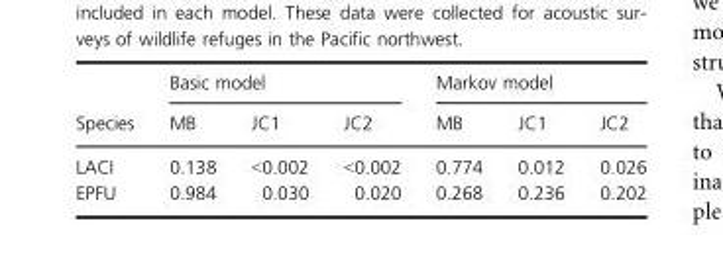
<table><thead><tr><td rowspan="2">Species</td><td colspan="3">Basic model</td><td colspan="3">Markov model</td></tr><tr><td>MB</td><td>JC1</td><td>JC2</td><td>MB</td><td>JC1</td><td>JC2</td></tr></thead><tbody><tr><td>LACI</td><td>0.138</td><td>&lt;0.002</td><td>&lt;0.002</td><td>0.774</td><td>0.012</td><td>0.026</td></tr><tr><td>EPFU</td><td>0.984</td><td>0.030</td><td>0.020</td><td>0.268</td><td>0.236</td><td>0.202</td></tr></tbody></table>